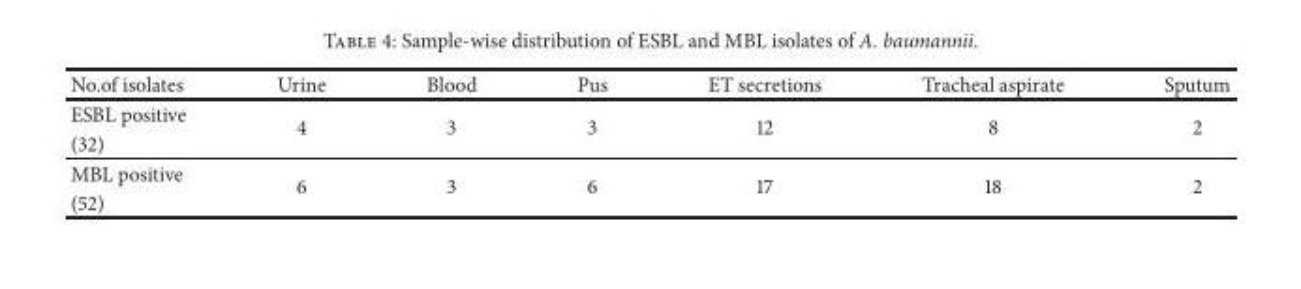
<table><thead><tr><td>No.of isolates</td><td>Urine</td><td>Blood</td><td>Pus</td><td>ET secretions</td><td>Tracheal aspirate</td><td>Sputum</td></tr></thead><tbody><tr><td>ESBL positive</td><td rowspan="2">4</td><td rowspan="2">3</td><td rowspan="2">3</td><td rowspan="2">12</td><td rowspan="2">8</td><td rowspan="2">2</td></tr><tr><td>(32)</td></tr><tr><td>MBL positive</td><td rowspan="2">6</td><td rowspan="2">3</td><td rowspan="2">6</td><td rowspan="2">17</td><td rowspan="2">18</td><td rowspan="2">2</td></tr><tr><td>(52)</td></tr></tbody></table>